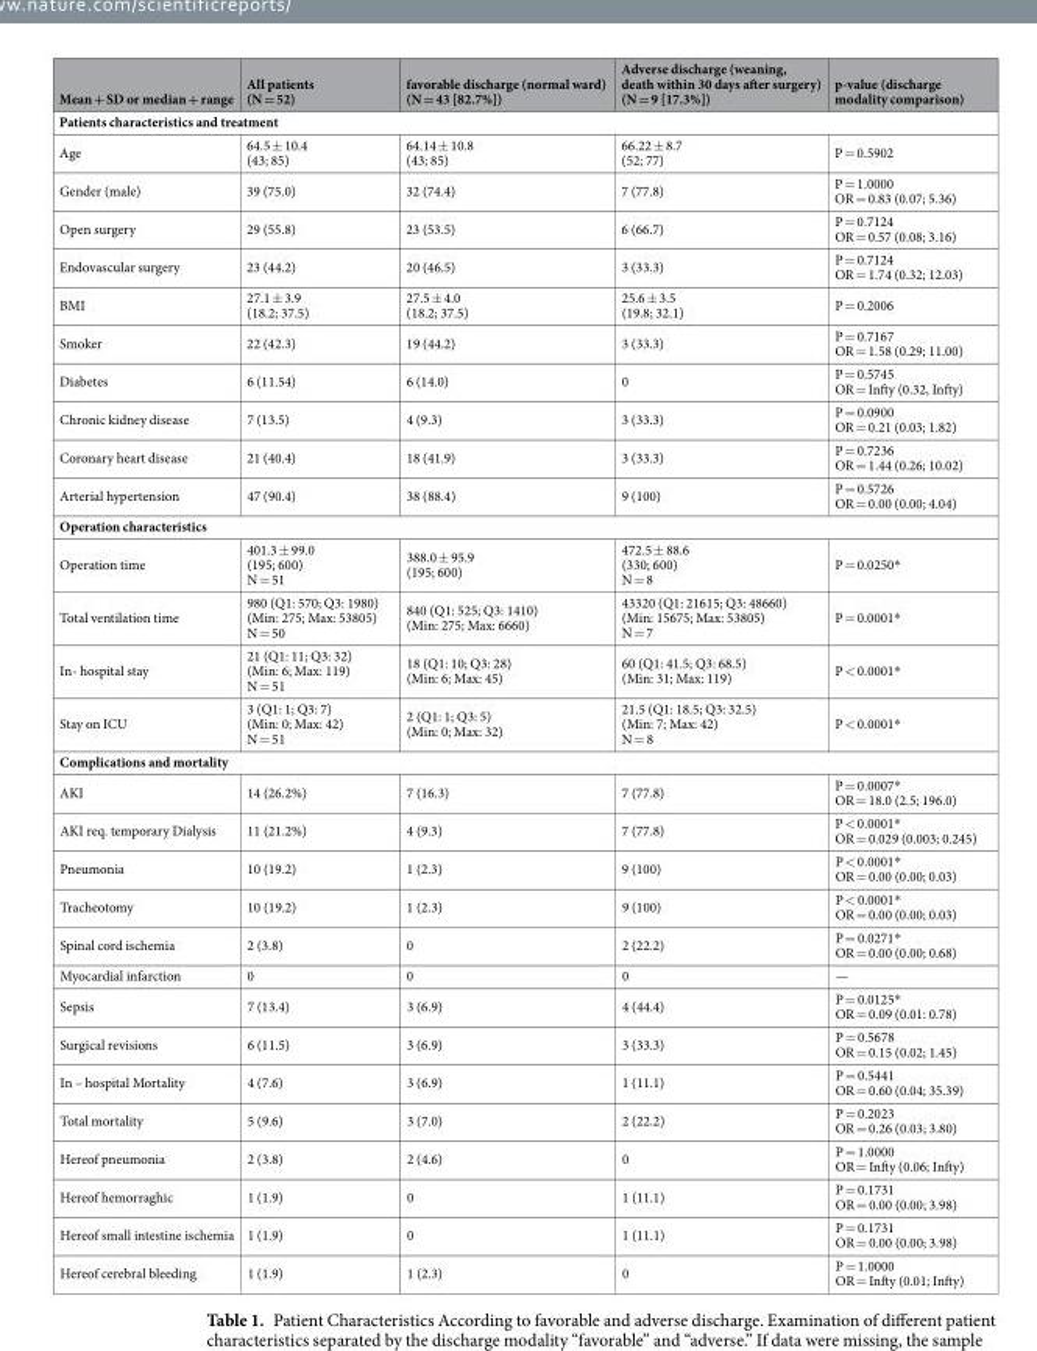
<table><thead><tr><td>Mean + SD or median + range</td><td>All patients (N = 52)</td><td>favorable discharge (normal ward) (N = 43 [82.7%])</td><td>Adverse discharge (weaning, death within 30 days after surgery) (N = 9 [17.3%])</td><td>p-value (discharge modality comparison)</td></tr></thead><tbody><tr><td colspan="5">Patients characteristics and treatment</td></tr><tr><td>Age</td><td>64.5 ± 10.4 (43; 85)</td><td>64.14 ± 10.8 (43; 85)</td><td>66.22 ± 8.7 (52; 77)</td><td>P = 0.5902</td></tr><tr><td>Gender (male)</td><td>39 (75.0)</td><td>32 (74.4)</td><td>7 (77.8)</td><td>P = 1.0000 OR = 0.83 (0.07; 5.36)</td></tr><tr><td>Open surgery</td><td>29 (55.8)</td><td>23 (53.5)</td><td>6 (66.7)</td><td>P = 0.7124 OR = 0.57 (0.08; 3.16)</td></tr><tr><td>Endovascular surgery</td><td>23 (44.2)</td><td>20 (46.5)</td><td>3 (33.3)</td><td>P = 0.7124 OR = 1.74 (0.32; 12.03)</td></tr><tr><td>BMI</td><td>27.1 ± 3.9 (18.2; 37.5)</td><td>27.5 ± 4.0 (18.2; 37.5)</td><td>25.6 ± 3.5 (19.8; 32.1)</td><td>P = 0.2006</td></tr><tr><td>Smoker</td><td>22 (42.3)</td><td>19 (44.2)</td><td>3 (33.3)</td><td>P = 0.7167 OR = 1.58 (0.29; 11.00)</td></tr><tr><td>Diabetes</td><td>6 (11.54)</td><td>6 (14.0)</td><td>0</td><td>P = 0.5745 OR = Infty (0.32, Infty)</td></tr><tr><td>Chronic kidney disease</td><td>7 (13.5)</td><td>4 (9.3)</td><td>3 (33.3)</td><td>P = 0.0900 OR = 0.21 (0.03; 1.82)</td></tr><tr><td>Coronary heart disease</td><td>21 (40.4)</td><td>18 (41.9)</td><td>3 (33.3)</td><td>P = 0.7236 OR = 1.44 (0.26; 10.02)</td></tr><tr><td>Arterial hypertension</td><td>47 (90.4)</td><td>38 (88.4)</td><td>9 (100)</td><td>P = 0.5726 OR = 0.00 (0.00; 4.04)</td></tr><tr><td colspan="5">Operation characteristics</td></tr><tr><td>Operation time</td><td>401.3 ± 99.0 (195; 600) N = 51</td><td>388.0 ± 95.9 (195; 600)</td><td>472.5 ± 88.6 (330; 600) N = 8</td><td>P = 0.0250*</td></tr><tr><td>Total ventilation time</td><td>980 (Q1: 570; Q3: 1980) (Min: 275; Max: 53805) N = 50</td><td>840 (Q1: 525; Q3: 1410) (Min: 275; Max: 6660)</td><td>43320 (Q1: 21615; Q3: 48660) (Min: 15675; Max: 53805) N = 7</td><td>P = 0.0001*</td></tr><tr><td>In- hospital stay</td><td>21 (Q1: 11; Q3: 32) (Min: 6; Max: 119) N = 51</td><td>18 (Q1: 10; Q3: 28) (Min: 6; Max: 45)</td><td>60 (Q1: 41.5; Q3: 68.5) (Min: 31; Max: 119)</td><td>P &lt; 0.0001*</td></tr><tr><td>Stay on ICU</td><td>3 (Q1: 1; Q3: 7) (Min: 0; Max: 42) N = 51</td><td>2 (Q1: 1; Q3: 5) (Min: 0; Max: 32)</td><td>21.5 (Q1: 18.5; Q3: 32.5) (Min: 7; Max: 42) N = 8</td><td>P &lt; 0.0001*</td></tr><tr><td colspan="5">Complications and mortality</td></tr><tr><td>AKI</td><td>14 (26.2%)</td><td>7 (16.3)</td><td>7 (77.8)</td><td>P = 0.0007* OR = 18.0 (2.5; 196.0)</td></tr><tr><td>AKI req. temporary Dialysis</td><td>11 (21.2%)</td><td>4 (9.3)</td><td>7 (77.8)</td><td>P &lt; 0.0001* OR = 0.029 (0.003; 0.245)</td></tr><tr><td>Pneumonia</td><td>10 (19.2)</td><td>1 (2.3)</td><td>9 (100)</td><td>P &lt; 0.0001* OR = 0.00 (0.00; 0.03)</td></tr><tr><td>Tracheotomy</td><td>10 (19.2)</td><td>1 (2.3)</td><td>9 (100)</td><td>P &lt; 0.0001* OR = 0.00 (0.00; 0.03)</td></tr><tr><td>Spinal cord ischemia</td><td>2 (3.8)</td><td>0</td><td>2 (22.2)</td><td>P = 0.0271* OR = 0.00 (0.00; 0.68)</td></tr><tr><td>Myocardial infarction</td><td>0</td><td>0</td><td>0</td><td>—</td></tr><tr><td>Sepsis</td><td>7 (13.4)</td><td>3 (6.9)</td><td>4 (44.4)</td><td>P = 0.0125* OR = 0.09 (0.01: 0.78)</td></tr><tr><td>Surgical revisions</td><td>6 (11.5)</td><td>3 (6.9)</td><td>3 (33.3)</td><td>P = 0.5678 OR = 0.15 (0.02; 1.45)</td></tr><tr><td>In – hospital Mortality</td><td>4 (7.6)</td><td>3 (6.9)</td><td>1 (11.1)</td><td>P = 0.5441 OR = 0.60 (0.04; 35.39)</td></tr><tr><td>Total mortality</td><td>5 (9.6)</td><td>3 (7.0)</td><td>2 (22.2)</td><td>P = 0.2023 OR = 0.26 (0.03; 3.80)</td></tr><tr><td>Hereof pneumonia</td><td>2 (3.8)</td><td>2 (4.6)</td><td>0</td><td>P = 1.0000 OR = Infty (0.06; Infty)</td></tr><tr><td>Hereof hemorraghic</td><td>1 (1.9)</td><td>0</td><td>1 (11.1)</td><td>P = 0.1731 OR = 0.00 (0.00; 3.98)</td></tr><tr><td>Hereof small intestine ischemia</td><td>1 (1.9)</td><td>0</td><td>1 (11.1)</td><td>P = 0.1731 OR = 0.00 (0.00; 3.98)</td></tr><tr><td>Hereof cerebral bleeding</td><td>1 (1.9)</td><td>1 (2.3)</td><td>0</td><td>P = 1.0000 OR = Infty (0.01; Infty)</td></tr></tbody></table>